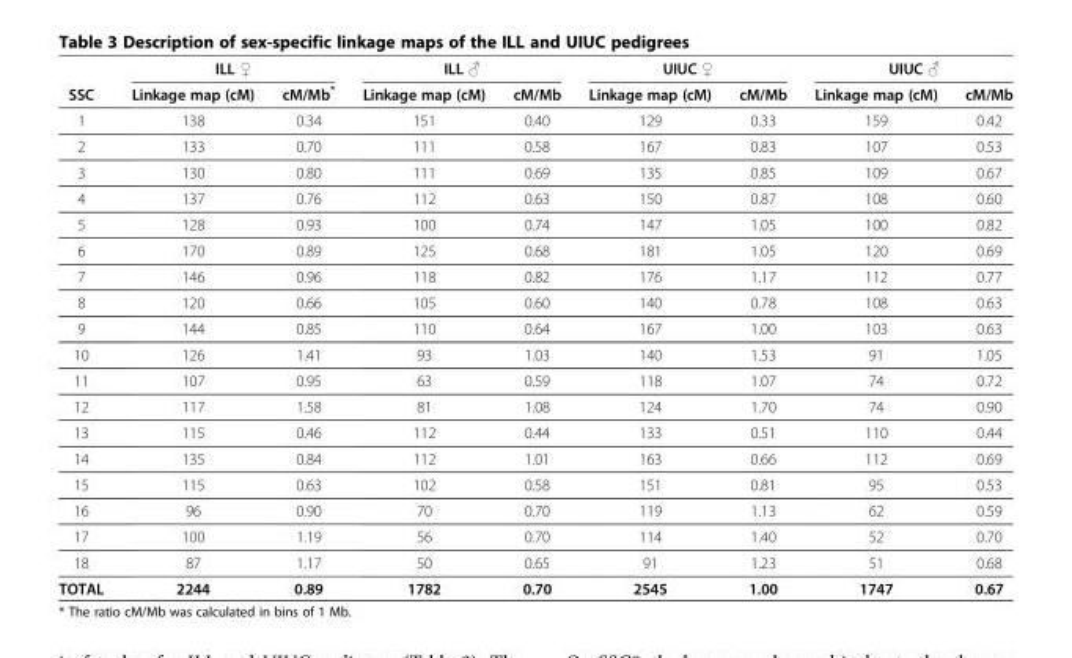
<table><thead><tr><td rowspan="2">SSC</td><td colspan="2">ILL ♀</td><td colspan="2">ILL ♂</td><td colspan="2">UIUC ♀</td><td colspan="2">UIUC ♂</td></tr><tr><td>Linkage map (cM)</td><td>cM/Mb*</td><td>Linkage map (cM)</td><td>cM/Mb</td><td>Linkage map (cM)</td><td>cM/Mb</td><td>Linkage map (cM)</td><td>cM/Mb</td></tr></thead><tbody><tr><td>1</td><td>138</td><td>0.34</td><td>151</td><td>0.40</td><td>129</td><td>0.33</td><td>159</td><td>0.42</td></tr><tr><td>2</td><td>133</td><td>0.70</td><td>111</td><td>0.58</td><td>167</td><td>0.83</td><td>107</td><td>0.53</td></tr><tr><td>3</td><td>130</td><td>0.80</td><td>111</td><td>0.69</td><td>135</td><td>0.85</td><td>109</td><td>0.67</td></tr><tr><td>4</td><td>137</td><td>0.76</td><td>112</td><td>0.63</td><td>150</td><td>0.87</td><td>108</td><td>0.60</td></tr><tr><td>5</td><td>128</td><td>0.93</td><td>100</td><td>0.74</td><td>147</td><td>1.05</td><td>100</td><td>0.82</td></tr><tr><td>6</td><td>170</td><td>0.89</td><td>125</td><td>0.68</td><td>181</td><td>1.05</td><td>120</td><td>0.69</td></tr><tr><td>7</td><td>146</td><td>0.96</td><td>118</td><td>0.82</td><td>176</td><td>1.17</td><td>112</td><td>0.77</td></tr><tr><td>8</td><td>120</td><td>0.66</td><td>105</td><td>0.60</td><td>140</td><td>0.78</td><td>108</td><td>0.63</td></tr><tr><td>9</td><td>144</td><td>0.85</td><td>110</td><td>0.64</td><td>167</td><td>1.00</td><td>103</td><td>0.63</td></tr><tr><td>10</td><td>126</td><td>1.41</td><td>93</td><td>1.03</td><td>140</td><td>1.53</td><td>91</td><td>1.05</td></tr><tr><td>11</td><td>107</td><td>0.95</td><td>63</td><td>0.59</td><td>118</td><td>1.07</td><td>74</td><td>0.72</td></tr><tr><td>12</td><td>117</td><td>1.58</td><td>81</td><td>1.08</td><td>124</td><td>1.70</td><td>74</td><td>0.90</td></tr><tr><td>13</td><td>115</td><td>0.46</td><td>112</td><td>0.44</td><td>133</td><td>0.51</td><td>110</td><td>0.44</td></tr><tr><td>14</td><td>135</td><td>0.84</td><td>112</td><td>1.01</td><td>163</td><td>0.66</td><td>112</td><td>0.69</td></tr><tr><td>15</td><td>115</td><td>0.63</td><td>102</td><td>0.58</td><td>151</td><td>0.81</td><td>95</td><td>0.53</td></tr><tr><td>16</td><td>96</td><td>0.90</td><td>70</td><td>0.70</td><td>119</td><td>1.13</td><td>62</td><td>0.59</td></tr><tr><td>17</td><td>100</td><td>1.19</td><td>56</td><td>0.70</td><td>114</td><td>1.40</td><td>52</td><td>0.70</td></tr><tr><td>18</td><td>87</td><td>1.17</td><td>50</td><td>0.65</td><td>91</td><td>1.23</td><td>51</td><td>0.68</td></tr><tr><td>TOTAL</td><td>2244</td><td>0.89</td><td>1782</td><td>0.70</td><td>2545</td><td>1.00</td><td>1747</td><td>0.67</td></tr></tbody></table>